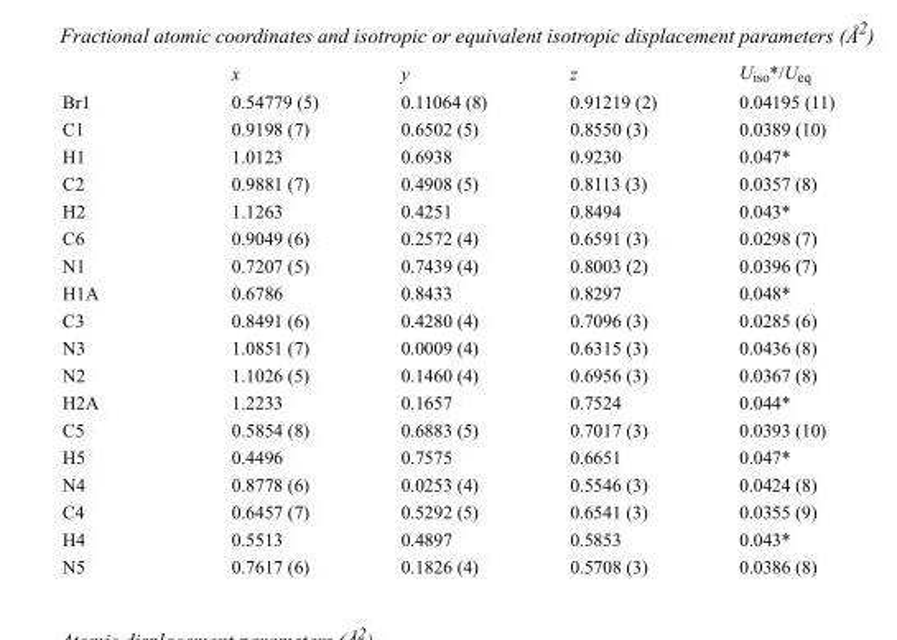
<table><thead><tr><td></td><td>x</td><td>y</td><td>z</td><td>U<sub>iso</sub>*/U<sub>eq</sub></td></tr></thead><tbody><tr><td>Br1</td><td>0.54779 (5)</td><td>0.11064 (8)</td><td>0.91219 (2)</td><td>0.04195 (11)</td></tr><tr><td>C1</td><td>0.9198 (7)</td><td>0.6502 (5)</td><td>0.8550 (3)</td><td>0.0389 (10)</td></tr><tr><td>H1</td><td>1.0123</td><td>0.6938</td><td>0.9230</td><td>0.047*</td></tr><tr><td>C2</td><td>0.9881 (7)</td><td>0.4908 (5)</td><td>0.8113 (3)</td><td>0.0357 (8)</td></tr><tr><td>H2</td><td>1.1263</td><td>0.4251</td><td>0.8494</td><td>0.043*</td></tr><tr><td>C6</td><td>0.9049 (6)</td><td>0.2572 (4)</td><td>0.6591 (3)</td><td>0.0298 (7)</td></tr><tr><td>N1</td><td>0.7207 (5)</td><td>0.7439 (4)</td><td>0.8003 (2)</td><td>0.0396 (7)</td></tr><tr><td>H1A</td><td>0.6786</td><td>0.8433</td><td>0.8297</td><td>0.048*</td></tr><tr><td>C3</td><td>0.8491 (6)</td><td>0.4280 (4)</td><td>0.7096 (3)</td><td>0.0285 (6)</td></tr><tr><td>N3</td><td>1.0851 (7)</td><td>0.0009 (4)</td><td>0.6315 (3)</td><td>0.0436 (8)</td></tr><tr><td>N2</td><td>1.1026 (5)</td><td>0.1460 (4)</td><td>0.6956 (3)</td><td>0.0367 (8)</td></tr><tr><td>H2A</td><td>1.2233</td><td>0.1657</td><td>0.7524</td><td>0.044*</td></tr><tr><td>C5</td><td>0.5854 (8)</td><td>0.6883 (5)</td><td>0.7017 (3)</td><td>0.0393 (10)</td></tr><tr><td>H5</td><td>0.4496</td><td>0.7575</td><td>0.6651</td><td>0.047*</td></tr><tr><td>N4</td><td>0.8778 (6)</td><td>0.0253 (4)</td><td>0.5546 (3)</td><td>0.0424 (8)</td></tr><tr><td>C4</td><td>0.6457 (7)</td><td>0.5292 (5)</td><td>0.6541 (3)</td><td>0.0355 (9)</td></tr><tr><td>H4</td><td>0.5513</td><td>0.4897</td><td>0.5853</td><td>0.043*</td></tr><tr><td>N5</td><td>0.7617 (6)</td><td>0.1826 (4)</td><td>0.5708 (3)</td><td>0.0386 (8)</td></tr></tbody></table>